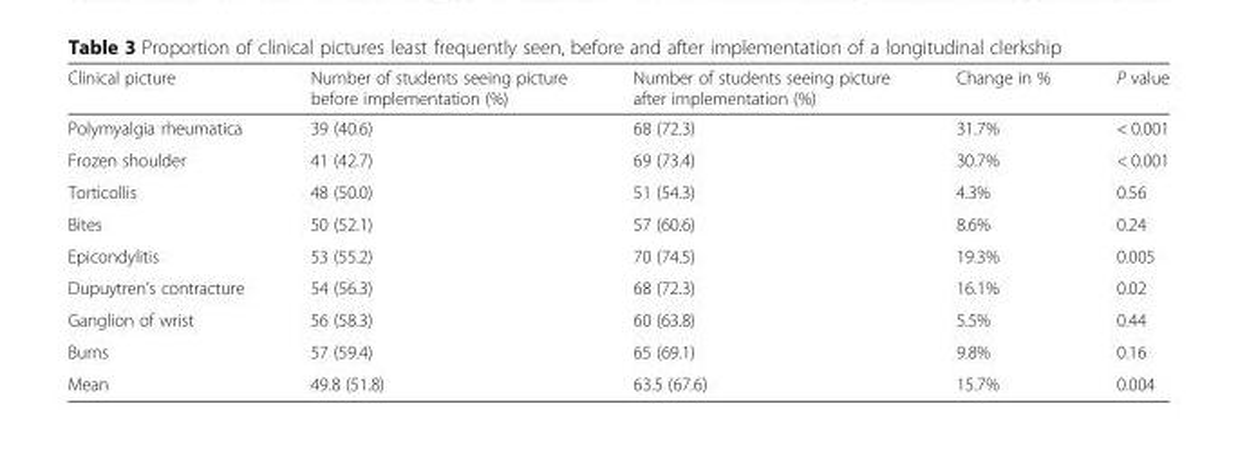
<table><thead><tr><td>Clinical picture</td><td>Number of students seeing picture before implementation (%)</td><td>Number of students seeing picture after implementation (%)</td><td>Change in %</td><td>P value</td></tr></thead><tbody><tr><td>Polymyalgia rheumatica</td><td>39 (40.6)</td><td>68 (72.3)</td><td>31.7%</td><td>&lt; 0.001</td></tr><tr><td>Frozen shoulder</td><td>41 (42.7)</td><td>69 (73.4)</td><td>30.7%</td><td>&lt; 0.001</td></tr><tr><td>Torticollis</td><td>48 (50.0)</td><td>51 (54.3)</td><td>4.3%</td><td>0.56</td></tr><tr><td>Bites</td><td>50 (52.1)</td><td>57 (60.6)</td><td>8.6%</td><td>0.24</td></tr><tr><td>Epicondylitis</td><td>53 (55.2)</td><td>70 (74.5)</td><td>19.3%</td><td>0.005</td></tr><tr><td>Dupuytren’s contracture</td><td>54 (56.3)</td><td>68 (72.3)</td><td>16.1%</td><td>0.02</td></tr><tr><td>Ganglion of wrist</td><td>56 (58.3)</td><td>60 (63.8)</td><td>5.5%</td><td>0.44</td></tr><tr><td>Burns</td><td>57 (59.4)</td><td>65 (69.1)</td><td>9.8%</td><td>0.16</td></tr><tr><td>Mean</td><td>49.8 (51.8)</td><td>63.5 (67.6)</td><td>15.7%</td><td>0.004</td></tr></tbody></table>